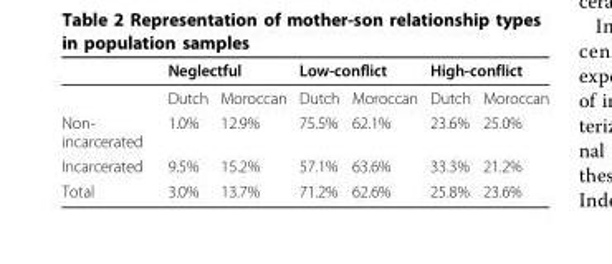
<table><thead><tr><td rowspan="2"></td><td colspan="2">Neglectful</td><td colspan="2">Low-conflict</td><td colspan="2">High-conflict</td></tr><tr><td>Dutch</td><td>Moroccan</td><td>Dutch</td><td>Moroccan</td><td>Dutch</td><td>Moroccan</td></tr></thead><tbody><tr><td>Non- incarcerated</td><td>1.0%</td><td>12.9%</td><td>75.5%</td><td>62.1%</td><td>23.6%</td><td>25.0%</td></tr><tr><td>Incarcerated</td><td>9.5%</td><td>15.2%</td><td>57.1%</td><td>63.6%</td><td>33.3%</td><td>21.2%</td></tr><tr><td>Total</td><td>3.0%</td><td>13.7%</td><td>71.2%</td><td>62.6%</td><td>25.8%</td><td>23.6%</td></tr></tbody></table>